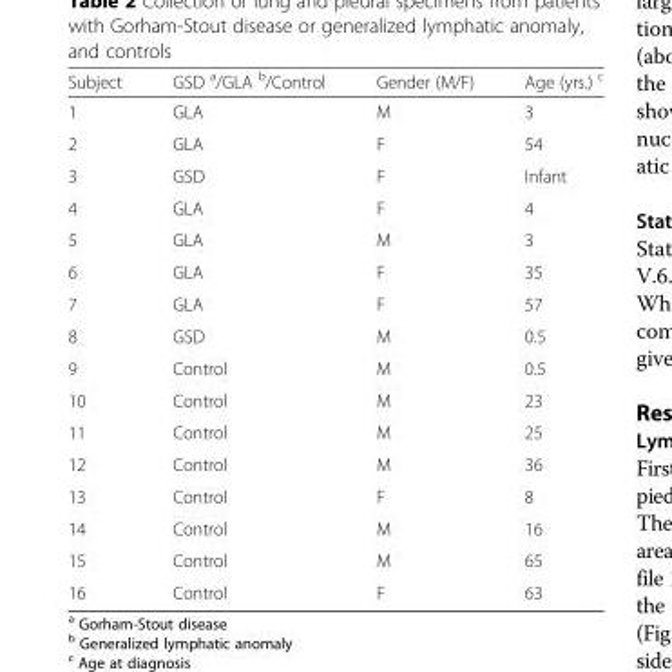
<table><thead><tr><td>Subject</td><td>GSD <sup>a</sup>/GLA <sup>b</sup>/Control</td><td>Gender (M/F)</td><td>Age (yrs.) <sup>c</sup></td></tr></thead><tbody><tr><td>1</td><td>GLA</td><td>M</td><td>3</td></tr><tr><td>2</td><td>GLA</td><td>F</td><td>54</td></tr><tr><td>3</td><td>GSD</td><td>F</td><td>Infant</td></tr><tr><td>4</td><td>GLA</td><td>F</td><td>4</td></tr><tr><td>5</td><td>GLA</td><td>M</td><td>3</td></tr><tr><td>6</td><td>GLA</td><td>F</td><td>35</td></tr><tr><td>7</td><td>GLA</td><td>F</td><td>57</td></tr><tr><td>8</td><td>GSD</td><td>M</td><td>0.5</td></tr><tr><td>9</td><td>Control</td><td>M</td><td>0.5</td></tr><tr><td>10</td><td>Control</td><td>M</td><td>23</td></tr><tr><td>11</td><td>Control</td><td>M</td><td>25</td></tr><tr><td>12</td><td>Control</td><td>M</td><td>36</td></tr><tr><td>13</td><td>Control</td><td>F</td><td>8</td></tr><tr><td>14</td><td>Control</td><td>M</td><td>16</td></tr><tr><td>15</td><td>Control</td><td>M</td><td>65</td></tr><tr><td>16</td><td>Control</td><td>F</td><td>63</td></tr></tbody></table>